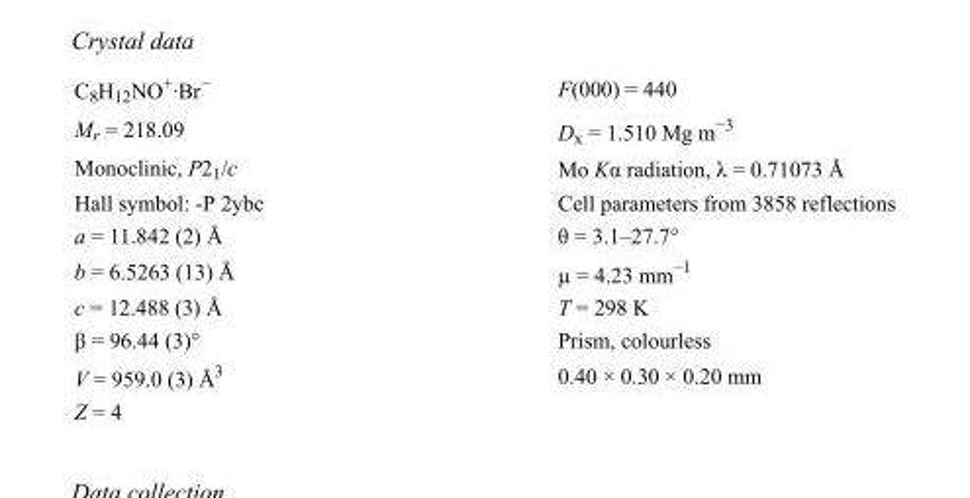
<table><tbody><tr><td>C<sub>8</sub>H<sub>12</sub>NO<sup>+</sup>·Br<sup>−</sup></td><td>F(000) = 440</td></tr><tr><td>M<sub>r</sub> = 218.09</td><td>D<sub>x</sub> = 1.510 Mg m<sup>−3</sup></td></tr><tr><td>Monoclinic, P2<sub>1</sub>/c</td><td>Mo Kα radiation, λ = 0.71073 Å</td></tr><tr><td>Hall symbol: -P 2ybc</td><td>Cell parameters from 3858 reflections</td></tr><tr><td>a = 11.842 (2) Å</td><td>θ = 3.1–27.7°</td></tr><tr><td>b = 6.5263 (13) Å</td><td>µ = 4.23 mm<sup>−1</sup></td></tr><tr><td>c = 12.488 (3) Å</td><td>T = 298 K</td></tr><tr><td>β = 96.44 (3)°</td><td>Prism, colourless</td></tr><tr><td>V = 959.0 (3) Å<sup>3</sup></td><td>0.40 × 0.30 × 0.20 mm</td></tr><tr><td>Z = 4</td><td></td></tr></tbody></table>